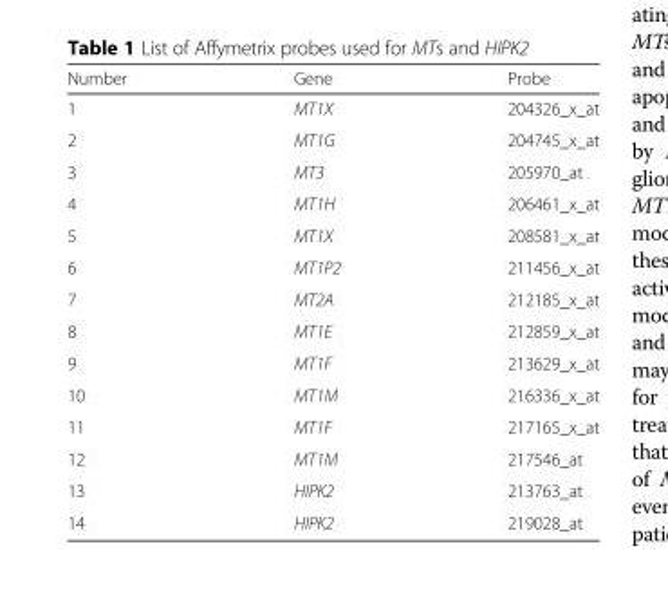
<table><thead><tr><td>Number</td><td>Gene</td><td>Probe</td></tr></thead><tbody><tr><td>1</td><td>MT1X</td><td>204326_x_at</td></tr><tr><td>2</td><td>MT1G</td><td>204745_x_at</td></tr><tr><td>3</td><td>MT3</td><td>205970_at</td></tr><tr><td>4</td><td>MT1H</td><td>206461_x_at</td></tr><tr><td>5</td><td>MT1X</td><td>208581_x_at</td></tr><tr><td>6</td><td>MT1P2</td><td>211456_x_at</td></tr><tr><td>7</td><td>MT2A</td><td>212185_x_at</td></tr><tr><td>8</td><td>MT1E</td><td>212859_x_at</td></tr><tr><td>9</td><td>MT1F</td><td>213629_x_at</td></tr><tr><td>10</td><td>MT1M</td><td>216336_x_at</td></tr><tr><td>11</td><td>MT1F</td><td>217165_x_at</td></tr><tr><td>12</td><td>MT1M</td><td>217546_at</td></tr><tr><td>13</td><td>HIPK2</td><td>213763_at</td></tr><tr><td>14</td><td>HIPK2</td><td>219028_at</td></tr></tbody></table>